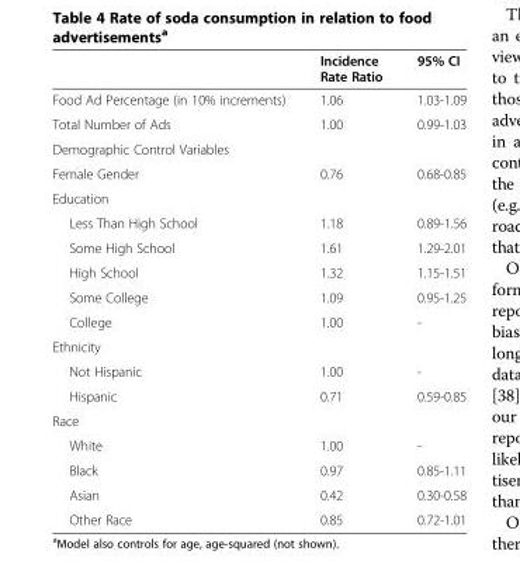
<table><thead><tr><td></td><td>Incidence Rate Ratio</td><td>95% CI</td></tr></thead><tbody><tr><td>Food Ad Percentage (in 10% increments)</td><td>1.06</td><td>1.03-1.09</td></tr><tr><td>Total Number of Ads</td><td>1.00</td><td>0.99-1.03</td></tr><tr><td colspan="3">Demographic Control Variables</td></tr><tr><td>Female Gender</td><td>0.76</td><td>0.68-0.85</td></tr><tr><td colspan="3">Education</td></tr><tr><td>Less Than High School</td><td>1.18</td><td>0.89-1.56</td></tr><tr><td>Some High School</td><td>1.61</td><td>1.29-2.01</td></tr><tr><td>High School</td><td>1.32</td><td>1.15-1.51</td></tr><tr><td>Some College</td><td>1.09</td><td>0.95-1.25</td></tr><tr><td>College</td><td>1.00</td><td>-</td></tr><tr><td colspan="3">Ethnicity</td></tr><tr><td>Not Hispanic</td><td>1.00</td><td>-</td></tr><tr><td>Hispanic</td><td>0.71</td><td>0.59-0.85</td></tr><tr><td colspan="3">Race</td></tr><tr><td>White</td><td>1.00</td><td>-</td></tr><tr><td>Black</td><td>0.97</td><td>0.85-1.11</td></tr><tr><td>Asian</td><td>0.42</td><td>0.30-0.58</td></tr><tr><td>Other Race</td><td>0.85</td><td>0.72-1.01</td></tr></tbody></table>